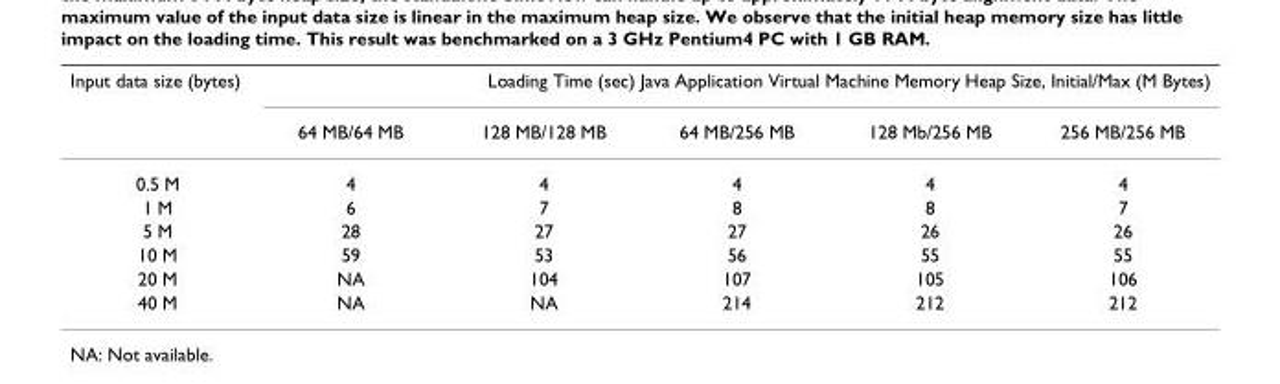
<table><thead><tr><td rowspan="2">Input data size (bytes)</td><td colspan="5">Loading Time (sec) Java Application Virtual Machine Memory Heap Size, Initial/Max (M Bytes)</td></tr><tr><td>64 MB/64 MB</td><td>128 MB/128 MB</td><td>64 MB/256 MB</td><td>128 Mb/256 MB</td><td>256 MB/256 MB</td></tr></thead><tbody><tr><td>0.5 M</td><td>4</td><td>4</td><td>4</td><td>4</td><td>4</td></tr><tr><td>1 M</td><td>6</td><td>7</td><td>8</td><td>8</td><td>7</td></tr><tr><td>5 M</td><td>28</td><td>27</td><td>27</td><td>26</td><td>26</td></tr><tr><td>10 M</td><td>59</td><td>53</td><td>56</td><td>55</td><td>55</td></tr><tr><td>20 M</td><td>NA</td><td>104</td><td>107</td><td>105</td><td>106</td></tr><tr><td>40 M</td><td>NA</td><td>NA</td><td>214</td><td>212</td><td>212</td></tr></tbody></table>